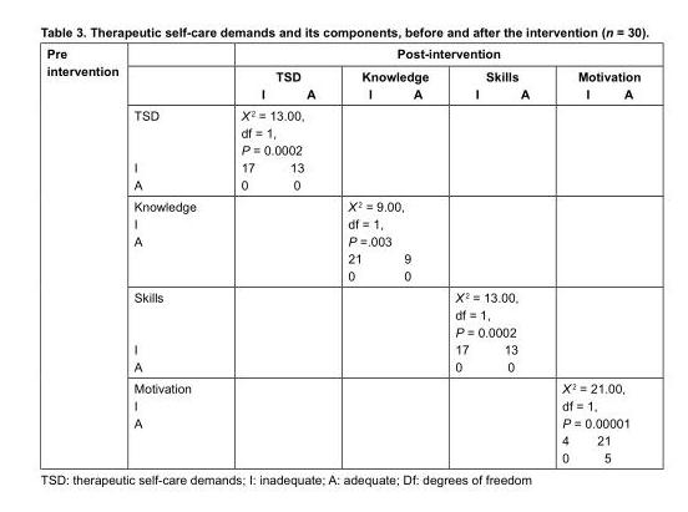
<table><tbody><tr><td rowspan="6">Pre intervention</td><td></td><td colspan="4">Post-intervention</td></tr><tr><td></td><td>TSD I A</td><td>Knowledge I A</td><td>Skills I A</td><td>Motivation I A</td></tr><tr><td>TSD I A</td><td>X <sup>2</sup> = 13.00, df = 1, P = 0.0002 17 13 0 0</td><td></td><td></td><td></td></tr><tr><td>Knowledge I A</td><td></td><td>X <sup>2</sup> = 9.00, df = 1, P =.003 21 9 0 0</td><td></td><td></td></tr><tr><td>Skills I A</td><td></td><td></td><td>X <sup>2</sup> = 13.00, df = 1, P = 0.0002 17 13 0 0</td><td></td></tr><tr><td>Motivation I A</td><td></td><td></td><td></td><td>X <sup>2</sup> = 21.00, df = 1, P = 0.00001 4 21 0 5</td></tr></tbody></table>